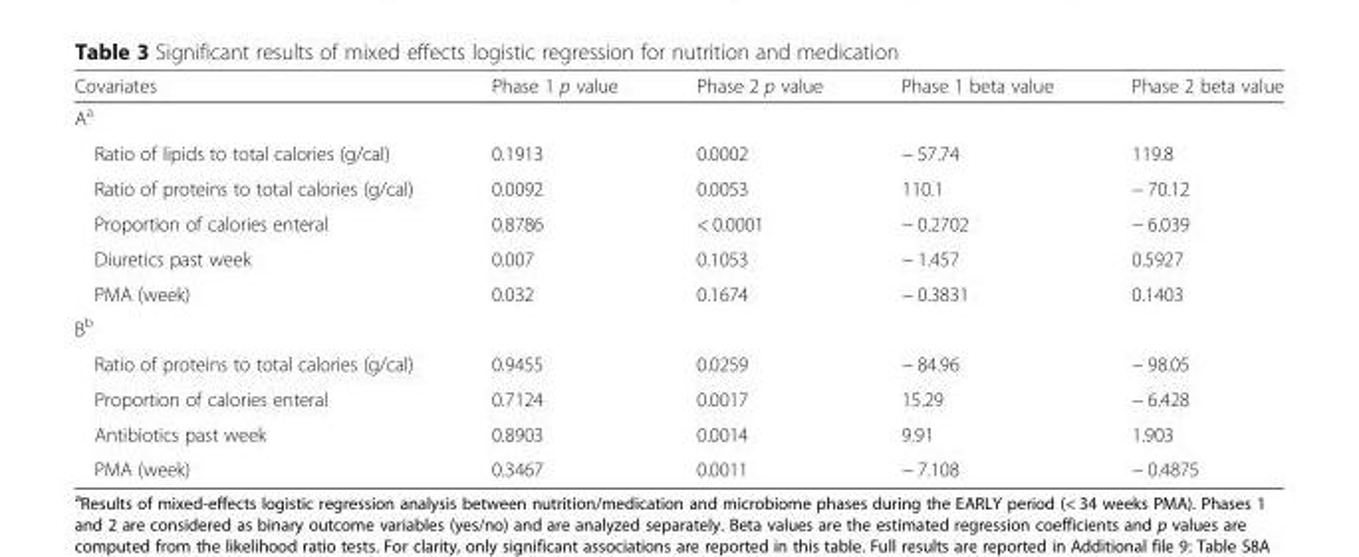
<table><thead><tr><td>Covariates</td><td>Phase 1 p value</td><td>Phase 2 p value</td><td>Phase 1 beta value</td><td>Phase 2 beta value</td></tr></thead><tbody><tr><td colspan="5">A<sup>a</sup></td></tr><tr><td>Ratio of lipids to total calories (g/cal)</td><td>0.1913</td><td>0.0002</td><td>− 57.74</td><td>119.8</td></tr><tr><td>Ratio of proteins to total calories (g/cal)</td><td>0.0092</td><td>0.0053</td><td>110.1</td><td>− 70.12</td></tr><tr><td>Proportion of calories enteral</td><td>0.8786</td><td>&lt; 0.0001</td><td>− 0.2702</td><td>− 6.039</td></tr><tr><td>Diuretics past week</td><td>0.007</td><td>0.1053</td><td>− 1.457</td><td>0.5927</td></tr><tr><td>PMA (week)</td><td>0.032</td><td>0.1674</td><td>− 0.3831</td><td>0.1403</td></tr><tr><td colspan="5">B<sup>b</sup></td></tr><tr><td>Ratio of proteins to total calories (g/cal)</td><td>0.9455</td><td>0.0259</td><td>− 84.96</td><td>− 98.05</td></tr><tr><td>Proportion of calories enteral</td><td>0.7124</td><td>0.0017</td><td>15.29</td><td>− 6.428</td></tr><tr><td>Antibiotics past week</td><td>0.8903</td><td>0.0014</td><td>9.91</td><td>1.903</td></tr><tr><td>PMA (week)</td><td>0.3467</td><td>0.0011</td><td>− 7.108</td><td>− 0.4875</td></tr></tbody></table>